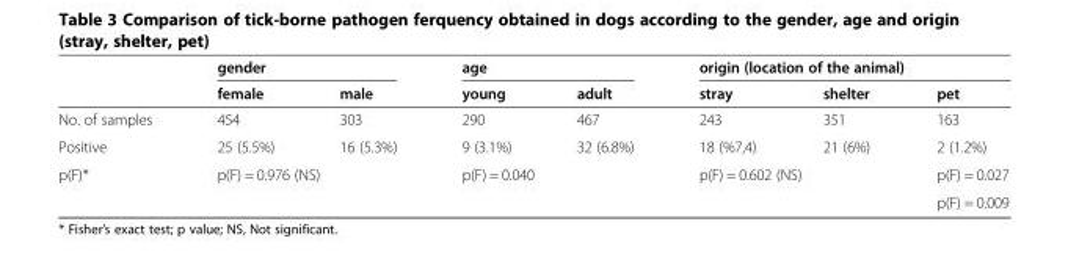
<table><thead><tr><td rowspan="2"></td><td colspan="2">gender</td><td colspan="2">age</td><td colspan="3">origin (location of the animal)</td></tr><tr><td>female</td><td>male</td><td>young</td><td>adult</td><td>stray</td><td>shelter</td><td>pet</td></tr></thead><tbody><tr><td>No. of samples</td><td>454</td><td>303</td><td>290</td><td>467</td><td>243</td><td>351</td><td>163</td></tr><tr><td>Positive</td><td>25 (5.5%)</td><td>16 (5.3%)</td><td>9 (3.1%)</td><td>32 (6.8%)</td><td>18 (%7,4)</td><td>21 (6%)</td><td>2 (1.2%)</td></tr><tr><td rowspan="2">p(F)*</td><td rowspan="2" colspan="2">p(F) = 0.976 (NS)</td><td rowspan="2" colspan="2">p(F) = 0.040</td><td rowspan="2" colspan="2">p(F) = 0.602 (NS)</td><td>p(F) = 0.027</td></tr><tr><td>p(F) = 0.009</td></tr></tbody></table>